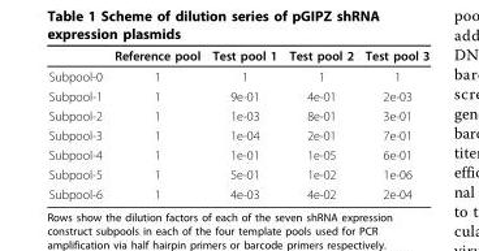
<table><thead><tr><td></td><td>Reference pool</td><td>Test pool 1</td><td>Test pool 2</td><td>Test pool 3</td></tr></thead><tbody><tr><td>Subpool-0</td><td>1</td><td>1</td><td>1</td><td>1</td></tr><tr><td>Subpool-1</td><td>1</td><td>9e-01</td><td>4e-01</td><td>2e-03</td></tr><tr><td>Subpool-2</td><td>1</td><td>1e-03</td><td>8e-01</td><td>3e-01</td></tr><tr><td>Subpool-3</td><td>1</td><td>1e-04</td><td>2e-01</td><td>7e-01</td></tr><tr><td>Subpool-4</td><td>1</td><td>1e-01</td><td>1e-05</td><td>6e-01</td></tr><tr><td>Subpool-5</td><td>1</td><td>5e-01</td><td>1e-02</td><td>1e-06</td></tr><tr><td>Subpool-6</td><td>1</td><td>4e-03</td><td>4e-02</td><td>2e-04</td></tr></tbody></table>